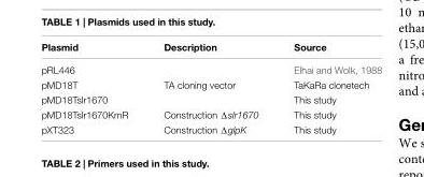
<table><thead><tr><td>Plasmid</td><td>Description</td><td>Source</td></tr></thead><tbody><tr><td>pRL446</td><td></td><td>Elhai and Wolk, 1988</td></tr><tr><td>pMD18T</td><td>TA cloning vector</td><td>TaKaRa clonetech</td></tr><tr><td>pMD18Tslr1670</td><td></td><td>This study</td></tr><tr><td>pMD18Tslr1670KmR</td><td>Construction Δslr1670</td><td>This study</td></tr><tr><td>pXT323</td><td>Construction ΔglpK</td><td>This study</td></tr></tbody></table>